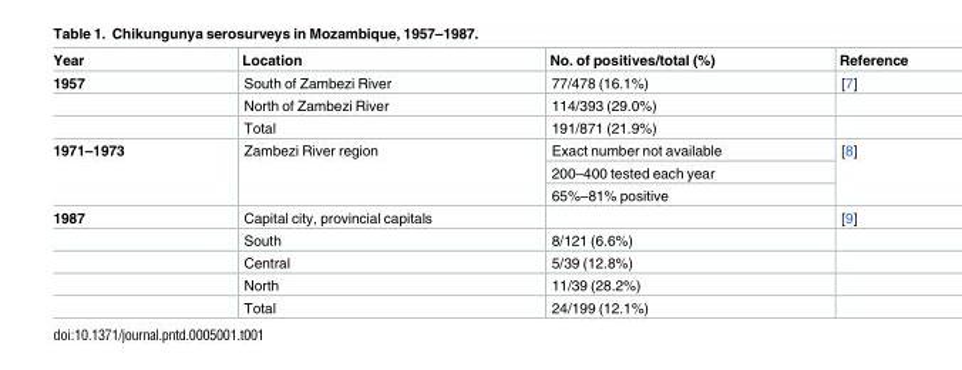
<table><thead><tr><td>Year</td><td>Location</td><td>No. of positives/total (%)</td><td>Reference</td></tr></thead><tbody><tr><td rowspan="3">1957</td><td>South of Zambezi River</td><td>77/478 (16.1%)</td><td>[7]</td></tr><tr><td>North of Zambezi River</td><td>114/393 (29.0%)</td><td></td></tr><tr><td>Total</td><td>191/871 (21.9%)</td><td></td></tr><tr><td rowspan="3">1971–1973</td><td rowspan="3">Zambezi River region</td><td>Exact number not available</td><td rowspan="3">[8]</td></tr><tr><td>200–400 tested each year</td></tr><tr><td>65%–81% positive</td></tr><tr><td rowspan="5">1987</td><td>Capital city, provincial capitals</td><td></td><td>[9]</td></tr><tr><td>South</td><td>8/121 (6.6%)</td><td></td></tr><tr><td>Central</td><td>5/39 (12.8%)</td><td></td></tr><tr><td>North</td><td>11/39 (28.2%)</td><td></td></tr><tr><td>Total</td><td>24/199 (12.1%)</td><td></td></tr></tbody></table>